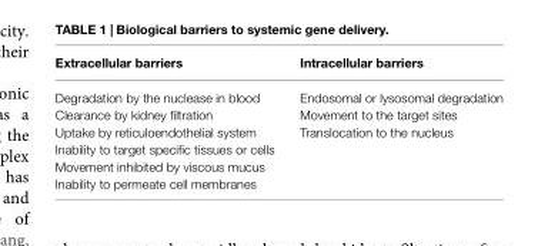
<table><thead><tr><td>Extracellular barriers</td><td>Intracellular barriers</td></tr></thead><tbody><tr><td>Degradation by the nuclease in blood</td><td>Endosomal or lysosomal degradation</td></tr><tr><td>Clearance by kidney filtration</td><td>Movement to the target sites</td></tr><tr><td>Uptake by reticuloendothelial system</td><td>Translocation to the nucleus</td></tr><tr><td colspan="2">Inability to target specific tissues or cells</td></tr><tr><td colspan="2">Movement inhibited by viscous mucus</td></tr><tr><td>Inability to permeate cell membranes</td><td></td></tr></tbody></table>